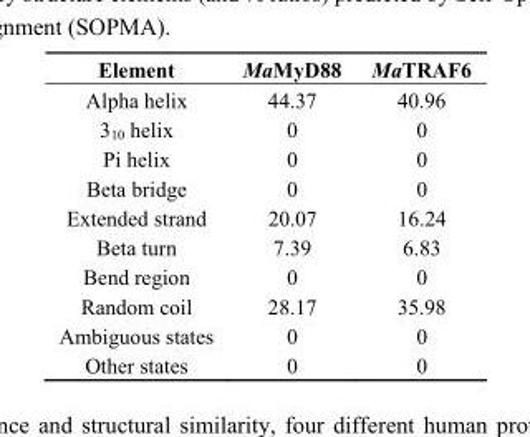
<table><thead><tr><td>Element</td><td>MaMyD88</td><td>MaTRAF6</td></tr></thead><tbody><tr><td>Alpha helix</td><td>44.37</td><td>40.96</td></tr><tr><td>3<sub>10</sub> helix</td><td>0</td><td>0</td></tr><tr><td>Pi helix</td><td>0</td><td>0</td></tr><tr><td>Beta bridge</td><td>0</td><td>0</td></tr><tr><td>Extended strand</td><td>20.07</td><td>16.24</td></tr><tr><td>Beta turn</td><td>7.39</td><td>6.83</td></tr><tr><td>Bend region</td><td>0</td><td>0</td></tr><tr><td>Random coil</td><td>28.17</td><td>35.98</td></tr><tr><td>Ambiguous states</td><td>0</td><td>0</td></tr><tr><td>Other states</td><td>0</td><td>0</td></tr></tbody></table>